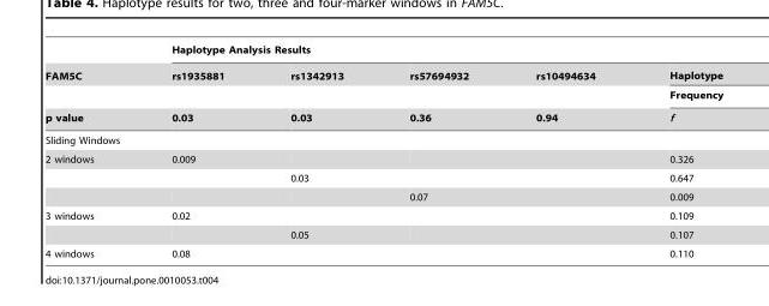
<table><thead><tr><td rowspan="4">FAM5C p value</td><td colspan="5">Haplotype Analysis Results</td></tr><tr><td rowspan="3">rs1935881 0.03</td><td rowspan="3">rs1342913 0.03</td><td rowspan="3">rs57694932 0.36</td><td rowspan="3">rs10494634 0.94</td><td rowspan="3">Haplotype Frequency f</td></tr><tr></tr><tr></tr></thead><tbody><tr><td colspan="6">Sliding Windows</td></tr><tr><td rowspan="3">2 windows</td><td>0.009</td><td></td><td></td><td></td><td>0.326</td></tr><tr><td></td><td>0.03</td><td></td><td></td><td>0.647</td></tr><tr><td></td><td></td><td>0.07</td><td></td><td>0.009</td></tr><tr><td rowspan="2">3 windows</td><td>0.02</td><td></td><td></td><td></td><td>0.109</td></tr><tr><td></td><td>0.05</td><td></td><td></td><td>0.107</td></tr><tr><td>4 windows</td><td>0.08</td><td></td><td></td><td></td><td>0.110</td></tr></tbody></table>